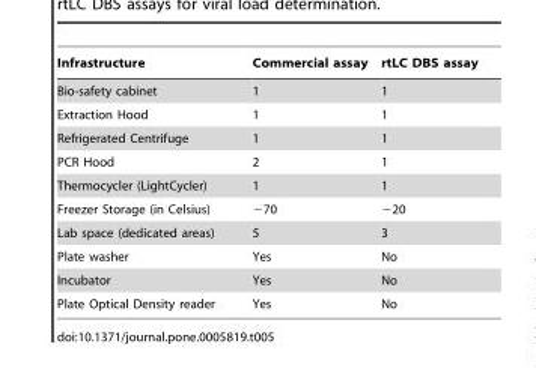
<table><thead><tr><td>Infrastructure</td><td>Commercial assay</td><td>rtLC DBS assay</td></tr></thead><tbody><tr><td>Bio-safety cabinet</td><td>1</td><td>1</td></tr><tr><td>Extraction Hood</td><td>1</td><td>1</td></tr><tr><td>Refrigerated Centrifuge</td><td>1</td><td>1</td></tr><tr><td>PCR Hood</td><td>2</td><td>1</td></tr><tr><td>Thermocycler (LightCycler)</td><td>1</td><td>1</td></tr><tr><td>Freezer Storage (in Celsius)</td><td>−70</td><td>−20</td></tr><tr><td>Lab space (dedicated areas)</td><td>5</td><td>3</td></tr><tr><td>Plate washer</td><td>Yes</td><td>No</td></tr><tr><td>Incubator</td><td>Yes</td><td>No</td></tr><tr><td>Plate Optical Density reader</td><td>Yes</td><td>No</td></tr></tbody></table>